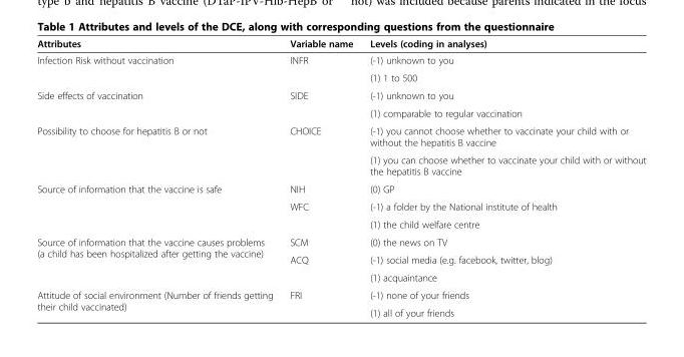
<table><thead><tr><td>Attributes</td><td>Variable name</td><td>Levels (coding in analyses)</td></tr></thead><tbody><tr><td rowspan="2">Infection Risk without vaccination</td><td rowspan="2">INFR</td><td>(-1) unknown to you</td></tr><tr><td>(1) 1 to 500</td></tr><tr><td rowspan="2">Side effects of vaccination</td><td rowspan="2">SIDE</td><td>(-1) unknown to you</td></tr><tr><td>(1) comparable to regular vaccination</td></tr><tr><td rowspan="2">Possibility to choose for hepatitis B or not</td><td rowspan="2">CHOICE</td><td>(-1) you cannot choose whether to vaccinate your child with or without the hepatitis B vaccine</td></tr><tr><td>(1) you can choose whether to vaccinate your child with or without the hepatitis B vaccine</td></tr><tr><td rowspan="3">Source of information that the vaccine is safe</td><td>NIH</td><td>(0) GP</td></tr><tr><td rowspan="2">WFC</td><td>(-1) a folder by the National institute of health</td></tr><tr><td>(1) the child welfare centre</td></tr><tr><td rowspan="3">Source of information that the vaccine causes problems (a child has been hospitalized after getting the vaccine)</td><td>SCM</td><td>(0) the news on TV</td></tr><tr><td rowspan="2">ACQ</td><td>(-1) social media (e.g. facebook, twitter, blog)</td></tr><tr><td>(1) acquaintance</td></tr><tr><td rowspan="2">Attitude of social environment (Number of friends getting their child vaccinated)</td><td rowspan="2">FRI</td><td>(-1) none of your friends</td></tr><tr><td>(1) all of your friends</td></tr></tbody></table>